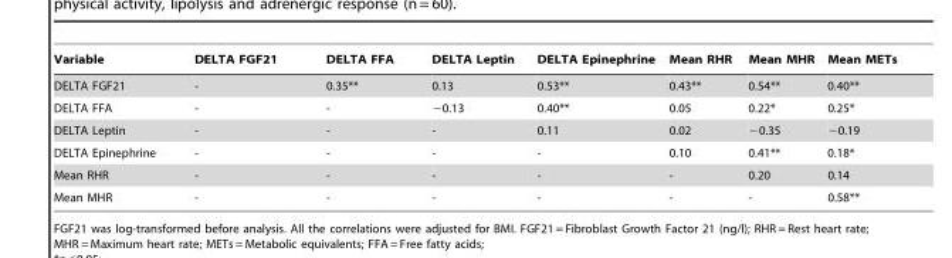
<table><thead><tr><td>Variable</td><td>DELTA FGF21</td><td>DELTA FFA</td><td>DELTA Leptin</td><td>DELTA Epinephrine</td><td>Mean RHR</td><td>Mean MHR</td><td>Mean METs</td></tr></thead><tbody><tr><td>DELTA FGF21</td><td>-</td><td>0.35**</td><td>0.13</td><td>0.53**</td><td>0.43**</td><td>0.54**</td><td>0.40**</td></tr><tr><td>DELTA FFA</td><td>-</td><td>-</td><td>−0.13</td><td>0.40**</td><td>0.05</td><td>0.22*</td><td>0.25*</td></tr><tr><td>DELTA Leptin</td><td>-</td><td>-</td><td>-</td><td>0.11</td><td>0.02</td><td>−0.35</td><td>−0.19</td></tr><tr><td>DELTA Epinephrine</td><td>-</td><td>-</td><td>-</td><td>-</td><td>0.10</td><td>0.41**</td><td>0.18*</td></tr><tr><td>Mean RHR</td><td>-</td><td>-</td><td>-</td><td>-</td><td>-</td><td>0.20</td><td>0.14</td></tr><tr><td>Mean MHR</td><td>-</td><td>-</td><td>-</td><td>-</td><td>-</td><td>-</td><td>0.58**</td></tr></tbody></table>